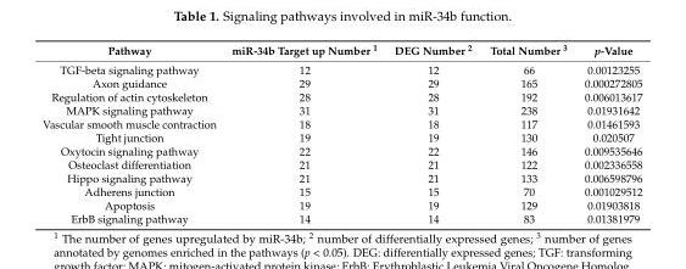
<table><thead><tr><td>Pathway</td><td>miR-34b Target up Number <sup>1</sup></td><td>DEG Number <sup>2</sup></td><td>Total Number <sup>3</sup></td><td>p-Value</td></tr></thead><tbody><tr><td>TGF-beta signaling pathway</td><td>12</td><td>12</td><td>66</td><td>0.00123255</td></tr><tr><td>Axon guidance</td><td>29</td><td>29</td><td>165</td><td>0.000272805</td></tr><tr><td>Regulation of actin cytoskeleton</td><td>28</td><td>28</td><td>192</td><td>0.006013617</td></tr><tr><td>MAPK signaling pathway</td><td>31</td><td>31</td><td>238</td><td>0.01931642</td></tr><tr><td>Vascular smooth muscle contraction</td><td>18</td><td>18</td><td>117</td><td>0.01461593</td></tr><tr><td>Tight junction</td><td>19</td><td>19</td><td>130</td><td>0.020507</td></tr><tr><td>Oxytocin signaling pathway</td><td>22</td><td>22</td><td>146</td><td>0.009535646</td></tr><tr><td>Osteoclast differentiation</td><td>21</td><td>21</td><td>122</td><td>0.002336558</td></tr><tr><td>Hippo signaling pathway</td><td>21</td><td>21</td><td>133</td><td>0.006598796</td></tr><tr><td>Adherens junction</td><td>15</td><td>15</td><td>70</td><td>0.001029512</td></tr><tr><td>Apoptosis</td><td>19</td><td>19</td><td>129</td><td>0.01903818</td></tr><tr><td>ErbB signaling pathway</td><td>14</td><td>14</td><td>83</td><td>0.01381979</td></tr></tbody></table>